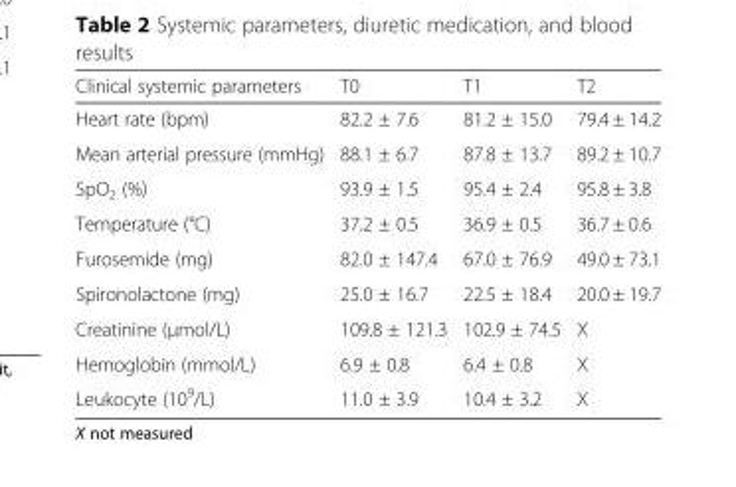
<table><thead><tr><td>Clinical systemic parameters</td><td>T0</td><td>T1</td><td>T2</td></tr></thead><tbody><tr><td>Heart rate (bpm)</td><td>82.2 ± 7.6</td><td>81.2 ± 15.0</td><td>79.4 ± 14.2</td></tr><tr><td>Mean arterial pressure (mmHg)</td><td>88.1 ± 6.7</td><td>87.8 ± 13.7</td><td>89.2 ± 10.7</td></tr><tr><td>SpO<sub>2</sub> (%)</td><td>93.9 ± 1.5</td><td>95.4 ± 2.4</td><td>95.8 ± 3.8</td></tr><tr><td>Temperature (°C)</td><td>37.2 ± 0.5</td><td>36.9 ± 0.5</td><td>36.7 ± 0.6</td></tr><tr><td>Furosemide (mg)</td><td>82.0 ± 147.4</td><td>67.0 ± 76.9</td><td>49.0 ± 73.1</td></tr><tr><td>Spironolactone (mg)</td><td>25.0 ± 16.7</td><td>22.5 ± 18.4</td><td>20.0 ± 19.7</td></tr><tr><td>Creatinine (μmol/L)</td><td>109.8 ± 121.3</td><td>102.9 ± 74.5</td><td>X</td></tr><tr><td>Hemoglobin (mmol/L)</td><td>6.9 ± 0.8</td><td>6.4 ± 0.8</td><td>X</td></tr><tr><td>Leukocyte (10<sup>9</sup>/L)</td><td>11.0 ± 3.9</td><td>10.4 ± 3.2</td><td>X</td></tr></tbody></table>